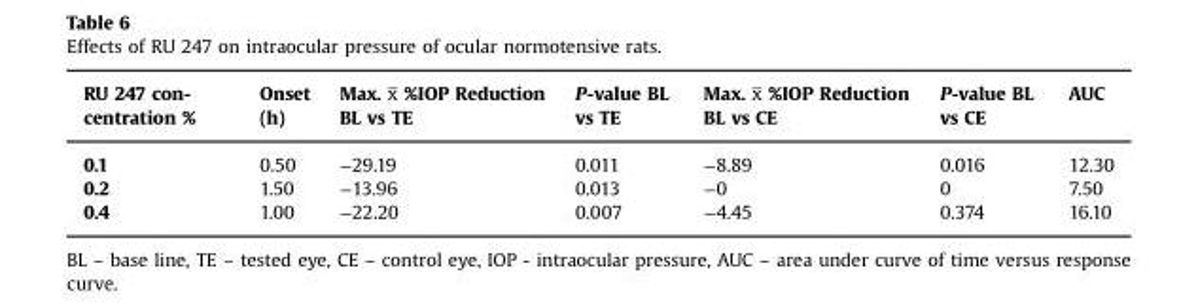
<table><thead><tr><td>RU 247 con- centration %</td><td>Onset (h)</td><td>Max. x̅ %IOP Reduction BL vs TE</td><td>P-value BL vs TE</td><td>Max. x̅ %IOP Reduction BL vs CE</td><td>P-value BL vs CE</td><td>AUC</td></tr></thead><tbody><tr><td>0.1</td><td>0.50</td><td>−29.19</td><td>0.011</td><td>−8.89</td><td>0.016</td><td>12.30</td></tr><tr><td>0.2</td><td>1.50</td><td>−13.96</td><td>0.013</td><td>−0</td><td>0</td><td>7.50</td></tr><tr><td>0.4</td><td>1.00</td><td>−22.20</td><td>0.007</td><td>−4.45</td><td>0.374</td><td>16.10</td></tr></tbody></table>